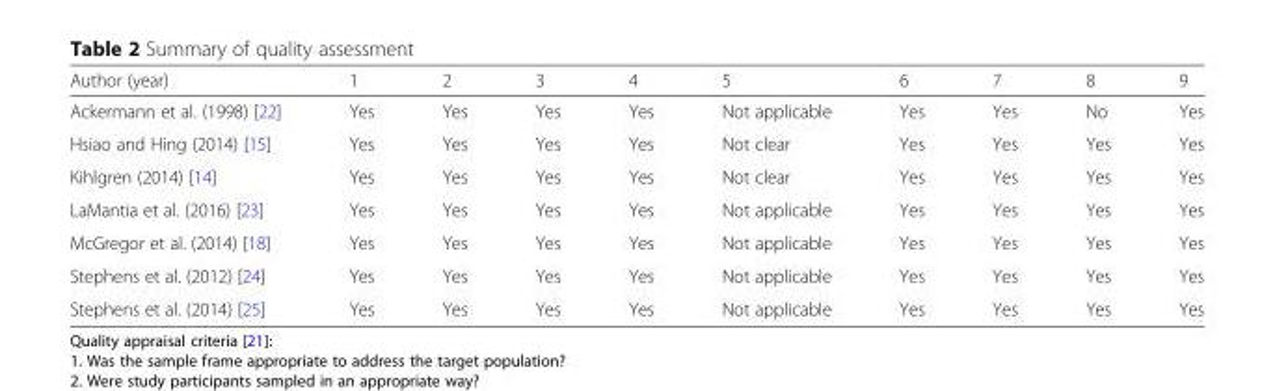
<table><thead><tr><td>Author (year)</td><td>1</td><td>2</td><td>3</td><td>4</td><td>5</td><td>6</td><td>7</td><td>8</td><td>9</td></tr></thead><tbody><tr><td>Ackermann et al. (1998) [22]</td><td>Yes</td><td>Yes</td><td>Yes</td><td>Yes</td><td>Not applicable</td><td>Yes</td><td>Yes</td><td>No</td><td>Yes</td></tr><tr><td>Hsiao and Hing (2014) [15]</td><td>Yes</td><td>Yes</td><td>Yes</td><td>Yes</td><td>Not clear</td><td>Yes</td><td>Yes</td><td>Yes</td><td>Yes</td></tr><tr><td>Kihlgren (2014) [14]</td><td>Yes</td><td>Yes</td><td>Yes</td><td>Yes</td><td>Not clear</td><td>Yes</td><td>Yes</td><td>Yes</td><td>Yes</td></tr><tr><td>LaMantia et al. (2016) [23]</td><td>Yes</td><td>Yes</td><td>Yes</td><td>Yes</td><td>Not applicable</td><td>Yes</td><td>Yes</td><td>Yes</td><td>Yes</td></tr><tr><td>McGregor et al. (2014) [18]</td><td>Yes</td><td>Yes</td><td>Yes</td><td>Yes</td><td>Not applicable</td><td>Yes</td><td>Yes</td><td>Yes</td><td>Yes</td></tr><tr><td>Stephens et al. (2012) [24]</td><td>Yes</td><td>Yes</td><td>Yes</td><td>Yes</td><td>Not applicable</td><td>Yes</td><td>Yes</td><td>Yes</td><td>Yes</td></tr><tr><td>Stephens et al. (2014) [25]</td><td>Yes</td><td>Yes</td><td>Yes</td><td>Yes</td><td>Not applicable</td><td>Yes</td><td>Yes</td><td>Yes</td><td>Yes</td></tr></tbody></table>